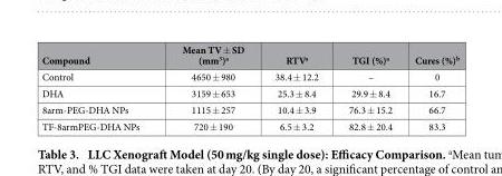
<table><thead><tr><td>Compound</td><td>Mean TV ± SD (mm<sup>3</sup>)<sup>a</sup></td><td>RTV<sup>a</sup></td><td>TGI (%)<sup>a</sup></td><td>Cures (%)<sup>b</sup></td></tr></thead><tbody><tr><td>Control</td><td>4650 ± 980</td><td>38.4 ± 12.2</td><td>–</td><td>0</td></tr><tr><td>DHA</td><td>3159 ± 653</td><td>25.3 ± 8.4</td><td>29.9 ± 8.4</td><td>16.7</td></tr><tr><td>8arm-PEG-DHA NPs</td><td>1115 ± 257</td><td>10.4 ± 3.9</td><td>76.3 ± 15.2</td><td>66.7</td></tr><tr><td>TF-8armPEG-DHA NPs</td><td>720 ± 190</td><td>6.5 ± 3.2</td><td>82.8 ± 20.4</td><td>83.3</td></tr></tbody></table>